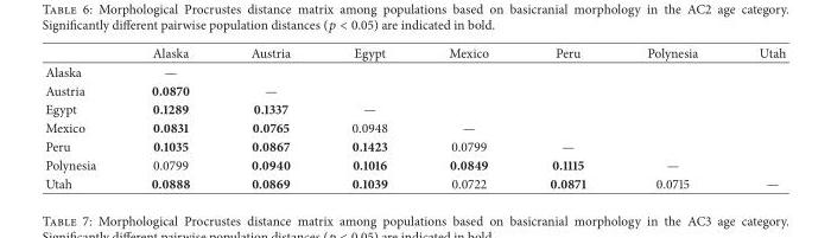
<table><thead><tr><td></td><td>Alaska</td><td>Austria</td><td>Egypt</td><td>Mexico</td><td>Peru</td><td>Polynesia</td><td>Utah</td></tr></thead><tbody><tr><td>Alaska</td><td>—</td><td></td><td></td><td></td><td></td><td></td><td></td></tr><tr><td>Austria</td><td>0.0870</td><td>—</td><td></td><td></td><td></td><td></td><td></td></tr><tr><td>Egypt</td><td>0.1289</td><td>0.1337</td><td>—</td><td></td><td></td><td></td><td></td></tr><tr><td>Mexico</td><td>0.0831</td><td>0.0765</td><td>0.0948</td><td>—</td><td></td><td></td><td></td></tr><tr><td>Peru</td><td>0.1035</td><td>0.0867</td><td>0.1423</td><td>0.0799</td><td>—</td><td></td><td></td></tr><tr><td>Polynesia</td><td>0.0799</td><td>0.0940</td><td>0.1016</td><td>0.0849</td><td>0.1115</td><td>—</td><td></td></tr><tr><td>Utah</td><td>0.0888</td><td>0.0869</td><td>0.1039</td><td>0.0722</td><td>0.0871</td><td>0.0715</td><td>—</td></tr></tbody></table>